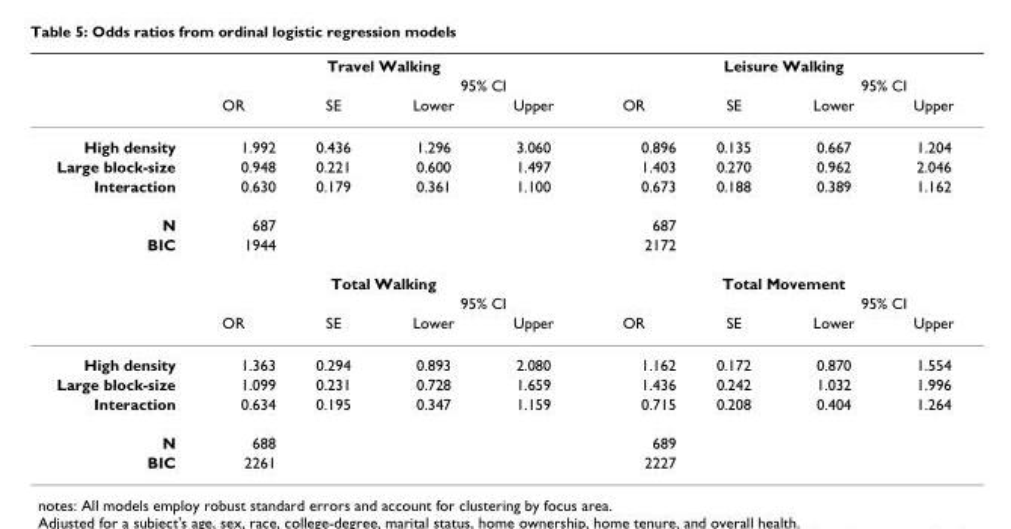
<table><thead><tr><td rowspan="3"></td><td colspan="4">Travel Walking</td><td colspan="4">Leisure Walking</td></tr><tr><td rowspan="2">OR</td><td rowspan="2">SE</td><td colspan="2">95% CI</td><td rowspan="2">OR</td><td rowspan="2">SE</td><td colspan="2">95% CI</td></tr><tr><td>Lower</td><td>Upper</td><td>Lower</td><td>Upper</td></tr></thead><tbody><tr><td>High density</td><td>1.992</td><td>0.436</td><td>1.296</td><td>3.060</td><td>0.896</td><td>0.135</td><td>0.667</td><td>1.204</td></tr><tr><td>Large block-size</td><td>0.948</td><td>0.221</td><td>0.600</td><td>1.497</td><td>1.403</td><td>0.270</td><td>0.962</td><td>2.046</td></tr><tr><td>Interaction</td><td>0.630</td><td>0.179</td><td>0.361</td><td>1.100</td><td>0.673</td><td>0.188</td><td>0.389</td><td>1.162</td></tr><tr><td>N</td><td>687</td><td></td><td></td><td></td><td>687</td><td></td><td></td><td></td></tr><tr><td rowspan="4">BIC</td><td>1944</td><td></td><td></td><td></td><td>2172</td><td></td><td></td><td></td></tr><tr><td colspan="4">Total Walking</td><td colspan="4">Total Movement</td></tr><tr><td></td><td></td><td colspan="2">95% CI</td><td></td><td></td><td colspan="2">95% CI</td></tr><tr><td>OR</td><td>SE</td><td>Lower</td><td>Upper</td><td>OR</td><td>SE</td><td>Lower</td><td>Upper</td></tr><tr><td>High density</td><td>1.363</td><td>0.294</td><td>0.893</td><td>2.080</td><td>1.162</td><td>0.172</td><td>0.870</td><td>1.554</td></tr><tr><td>Large block-size</td><td>1.099</td><td>0.231</td><td>0.728</td><td>1.659</td><td>1.436</td><td>0.242</td><td>1.032</td><td>1.996</td></tr><tr><td>Interaction</td><td>0.634</td><td>0.195</td><td>0.347</td><td>1.159</td><td>0.715</td><td>0.208</td><td>0.404</td><td>1.264</td></tr><tr><td>N</td><td>688</td><td></td><td></td><td></td><td>689</td><td></td><td></td><td></td></tr><tr><td>BIC</td><td>2261</td><td></td><td></td><td></td><td>2227</td><td></td><td></td><td></td></tr></tbody></table>